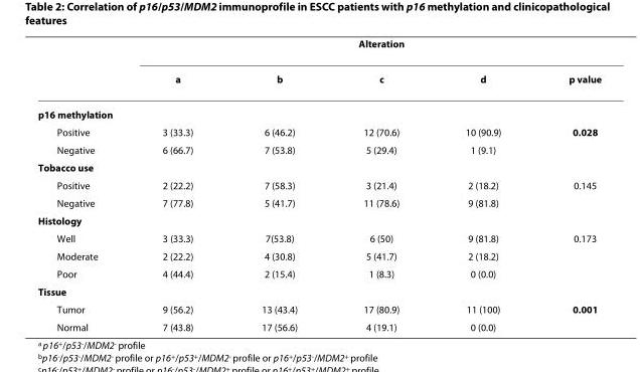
<table><thead><tr><td rowspan="2"></td><td colspan="5">Alteration</td></tr><tr><td>a</td><td>b</td><td>c</td><td>d</td><td>p value</td></tr></thead><tbody><tr><td colspan="6">p16 methylation</td></tr><tr><td>Positive</td><td>3 (33.3)</td><td>6 (46.2)</td><td>12 (70.6)</td><td>10 (90.9)</td><td>0.028</td></tr><tr><td>Negative</td><td>6 (66.7)</td><td>7 (53.8)</td><td>5 (29.4)</td><td>1 (9.1)</td><td></td></tr><tr><td colspan="6">Tobacco use</td></tr><tr><td>Positive</td><td>2 (22.2)</td><td>7 (58.3)</td><td>3 (21.4)</td><td>2 (18.2)</td><td>0.145</td></tr><tr><td>Negative</td><td>7 (77.8)</td><td>5 (41.7)</td><td>11 (78.6)</td><td>9 (81.8)</td><td></td></tr><tr><td colspan="6">Histology</td></tr><tr><td>Well</td><td>3 (33.3)</td><td>7(53.8)</td><td>6 (50)</td><td>9 (81.8)</td><td>0.173</td></tr><tr><td>Moderate</td><td>2 (22.2)</td><td>4 (30.8)</td><td>5 (41.7)</td><td>2 (18.2)</td><td></td></tr><tr><td>Poor</td><td>4 (44.4)</td><td>2 (15.4)</td><td>1 (8.3)</td><td>0 (0.0)</td><td></td></tr><tr><td colspan="6">Tissue</td></tr><tr><td>Tumor</td><td>9 (56.2)</td><td>13 (43.4)</td><td>17 (80.9)</td><td>11 (100)</td><td>0.001</td></tr><tr><td>Normal</td><td>7 (43.8)</td><td>17 (56.6)</td><td>4 (19.1)</td><td>0 (0.0)</td><td></td></tr></tbody></table>